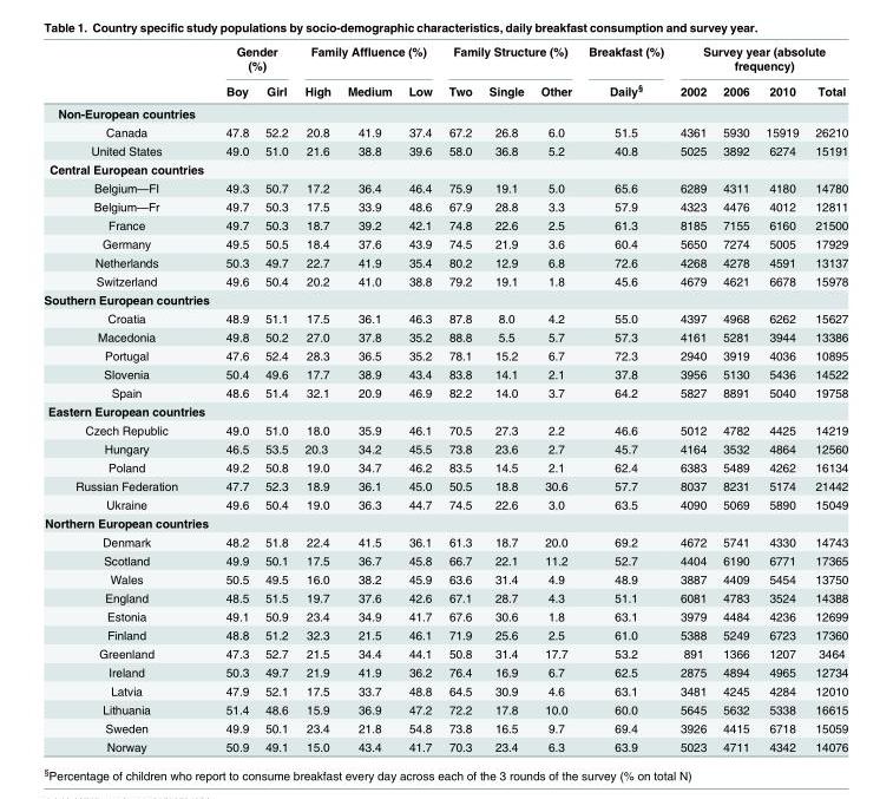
<table><thead><tr><td rowspan="2"></td><td colspan="2">Gender (%)</td><td colspan="3">Family Affluence (%)</td><td colspan="3">Family Structure (%)</td><td rowspan="2">Breakfast (%) Daily<sup>§</sup></td><td colspan="4">Survey year (absolute frequency)</td></tr><tr><td>Boy</td><td>Girl</td><td>High</td><td>Medium</td><td>Low</td><td>Two</td><td>Single</td><td>Other</td><td>2002</td><td>2006</td><td>2010</td><td>Total</td></tr></thead><tbody><tr><td colspan="14">Non-European countries</td></tr><tr><td>Canada</td><td>47.8</td><td>52.2</td><td>20.8</td><td>41.9</td><td>37.4</td><td>67.2</td><td>26.8</td><td>6.0</td><td>51.5</td><td>4361</td><td>5930</td><td>15919</td><td>26210</td></tr><tr><td>United States</td><td>49.0</td><td>51.0</td><td>21.6</td><td>38.8</td><td>39.6</td><td>58.0</td><td>36.8</td><td>5.2</td><td>40.8</td><td>5025</td><td>3892</td><td>6274</td><td>15191</td></tr><tr><td colspan="14">Central European countries</td></tr><tr><td>Belgium—FI</td><td>49.3</td><td>50.7</td><td>17.2</td><td>36.4</td><td>46.4</td><td>75.9</td><td>19.1</td><td>5.0</td><td>65.6</td><td>6289</td><td>4311</td><td>4180</td><td>14780</td></tr><tr><td>Belgium—Fr</td><td>49.7</td><td>50.3</td><td>17.5</td><td>33.9</td><td>48.6</td><td>67.9</td><td>28.8</td><td>3.3</td><td>57.9</td><td>4323</td><td>4476</td><td>4012</td><td>12811</td></tr><tr><td>France</td><td>49.7</td><td>50.3</td><td>18.7</td><td>39.2</td><td>42.1</td><td>74.8</td><td>22.6</td><td>2.5</td><td>61.3</td><td>8185</td><td>7155</td><td>6160</td><td>21500</td></tr><tr><td>Germany</td><td>49.5</td><td>50.5</td><td>18.4</td><td>37.6</td><td>43.9</td><td>74.5</td><td>21.9</td><td>3.6</td><td>60.4</td><td>5650</td><td>7274</td><td>5005</td><td>17929</td></tr><tr><td>Netherlands</td><td>50.3</td><td>49.7</td><td>22.7</td><td>41.9</td><td>35.4</td><td>80.2</td><td>12.9</td><td>6.8</td><td>72.6</td><td>4268</td><td>4278</td><td>4591</td><td>13137</td></tr><tr><td>Switzerland</td><td>49.6</td><td>50.4</td><td>20.2</td><td>41.0</td><td>38.8</td><td>79.2</td><td>19.1</td><td>1.8</td><td>45.6</td><td>4679</td><td>4621</td><td>6678</td><td>15978</td></tr><tr><td colspan="14">Southern European countries</td></tr><tr><td>Croatia</td><td>48.9</td><td>51.1</td><td>17.5</td><td>36.1</td><td>46.3</td><td>87.8</td><td>8.0</td><td>4.2</td><td>55.0</td><td>4397</td><td>4968</td><td>6262</td><td>15627</td></tr><tr><td>Macedonia</td><td>49.8</td><td>50.2</td><td>27.0</td><td>37.8</td><td>35.2</td><td>88.8</td><td>5.5</td><td>5.7</td><td>57.3</td><td>4161</td><td>5281</td><td>3944</td><td>13386</td></tr><tr><td>Portugal</td><td>47.6</td><td>52.4</td><td>28.3</td><td>36.5</td><td>35.2</td><td>78.1</td><td>15.2</td><td>6.7</td><td>72.3</td><td>2940</td><td>3919</td><td>4036</td><td>10895</td></tr><tr><td>Slovenia</td><td>50.4</td><td>49.6</td><td>17.7</td><td>38.9</td><td>43.4</td><td>83.8</td><td>14.1</td><td>2.1</td><td>37.8</td><td>3956</td><td>5130</td><td>5436</td><td>14522</td></tr><tr><td>Spain</td><td>48.6</td><td>51.4</td><td>32.1</td><td>20.9</td><td>46.9</td><td>82.2</td><td>14.0</td><td>3.7</td><td>64.2</td><td>5827</td><td>8891</td><td>5040</td><td>19758</td></tr><tr><td colspan="14">Eastern European countries</td></tr><tr><td>Czech Republic</td><td>49.0</td><td>51.0</td><td>18.0</td><td>35.9</td><td>46.1</td><td>70.5</td><td>27.3</td><td>2.2</td><td>46.6</td><td>5012</td><td>4782</td><td>4425</td><td>14219</td></tr><tr><td>Hungary</td><td>46.5</td><td>53.5</td><td>20.3</td><td>34.2</td><td>45.5</td><td>73.8</td><td>23.6</td><td>2.7</td><td>45.7</td><td>4164</td><td>3532</td><td>4864</td><td>12560</td></tr><tr><td>Poland</td><td>49.2</td><td>50.8</td><td>19.0</td><td>34.7</td><td>46.2</td><td>83.5</td><td>14.5</td><td>2.1</td><td>62.4</td><td>6383</td><td>5489</td><td>4262</td><td>16134</td></tr><tr><td>Russian Federation</td><td>47.7</td><td>52.3</td><td>18.9</td><td>36.1</td><td>45.0</td><td>50.5</td><td>18.8</td><td>30.6</td><td>57.7</td><td>8037</td><td>8231</td><td>5174</td><td>21442</td></tr><tr><td>Ukraine</td><td>49.6</td><td>50.4</td><td>19.0</td><td>36.3</td><td>44.7</td><td>74.5</td><td>22.6</td><td>3.0</td><td>63.5</td><td>4090</td><td>5069</td><td>5890</td><td>15049</td></tr><tr><td colspan="14">Northern European countries</td></tr><tr><td>Denmark</td><td>48.2</td><td>51.8</td><td>22.4</td><td>41.5</td><td>36.1</td><td>61.3</td><td>18.7</td><td>20.0</td><td>69.2</td><td>4672</td><td>5741</td><td>4330</td><td>14743</td></tr><tr><td>Scotland</td><td>49.9</td><td>50.1</td><td>17.5</td><td>36.7</td><td>45.8</td><td>66.7</td><td>22.1</td><td>11.2</td><td>52.7</td><td>4404</td><td>6190</td><td>6771</td><td>17365</td></tr><tr><td>Wales</td><td>50.5</td><td>49.5</td><td>16.0</td><td>38.2</td><td>45.9</td><td>63.6</td><td>31.4</td><td>4.9</td><td>48.9</td><td>3887</td><td>4409</td><td>5454</td><td>13750</td></tr><tr><td>England</td><td>48.5</td><td>51.5</td><td>19.7</td><td>37.6</td><td>42.6</td><td>67.1</td><td>28.7</td><td>4.3</td><td>51.1</td><td>6081</td><td>4783</td><td>3524</td><td>14388</td></tr><tr><td>Estonia</td><td>49.1</td><td>50.9</td><td>23.4</td><td>34.9</td><td>41.7</td><td>67.6</td><td>30.6</td><td>1.8</td><td>63.1</td><td>3979</td><td>4484</td><td>4236</td><td>12699</td></tr><tr><td>Finland</td><td>48.8</td><td>51.2</td><td>32.3</td><td>21.5</td><td>46.1</td><td>71.9</td><td>25.6</td><td>2.5</td><td>61.0</td><td>5388</td><td>5249</td><td>6723</td><td>17360</td></tr><tr><td>Greenland</td><td>47.3</td><td>52.7</td><td>21.5</td><td>34.4</td><td>44.1</td><td>50.8</td><td>31.4</td><td>17.7</td><td>53.2</td><td>891</td><td>1366</td><td>1207</td><td>3464</td></tr><tr><td>Ireland</td><td>50.3</td><td>49.7</td><td>21.9</td><td>41.9</td><td>36.2</td><td>76.4</td><td>16.9</td><td>6.7</td><td>62.5</td><td>2875</td><td>4894</td><td>4965</td><td>12734</td></tr><tr><td>Latvia</td><td>47.9</td><td>52.1</td><td>17.5</td><td>33.7</td><td>48.8</td><td>64.5</td><td>30.9</td><td>4.6</td><td>63.1</td><td>3481</td><td>4245</td><td>4284</td><td>12010</td></tr><tr><td>Lithuania</td><td>51.4</td><td>48.6</td><td>15.9</td><td>36.9</td><td>47.2</td><td>72.2</td><td>17.8</td><td>10.0</td><td>60.0</td><td>5645</td><td>5632</td><td>5338</td><td>16615</td></tr><tr><td>Sweden</td><td>49.9</td><td>50.1</td><td>23.4</td><td>21.8</td><td>54.8</td><td>73.8</td><td>16.5</td><td>9.7</td><td>69.4</td><td>3926</td><td>4415</td><td>6718</td><td>15059</td></tr><tr><td>Norway</td><td>50.9</td><td>49.1</td><td>15.0</td><td>43.4</td><td>41.7</td><td>70.3</td><td>23.4</td><td>6.3</td><td>63.9</td><td>5023</td><td>4711</td><td>4342</td><td>14076</td></tr></tbody></table>